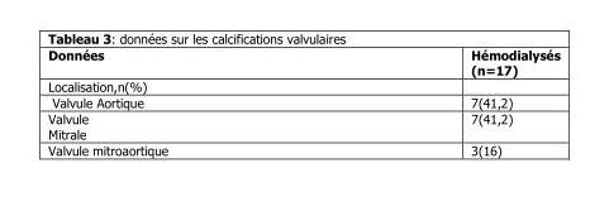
<table><thead><tr><td>Données</td><td>Hémodialysés (n=17)</td></tr></thead><tbody><tr><td colspan="2">Localisation,n(%)</td></tr><tr><td>Valvule Aortique</td><td>7(41,2)</td></tr><tr><td>Valvule Mitrale</td><td>7(41,2)</td></tr><tr><td>Valvule mitroaortique</td><td>3(16)</td></tr></tbody></table>